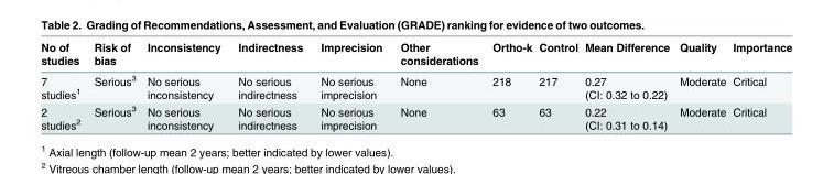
<table><thead><tr><td>No of studies</td><td>Risk of bias</td><td>Inconsistency</td><td>Indirectness</td><td>Imprecision</td><td>Other considerations</td><td>Ortho-k</td><td>Control</td><td>Mean Difference</td><td>Quality</td><td>Importance</td></tr></thead><tbody><tr><td>7 studies<sup>1</sup></td><td>Serious<sup>3</sup></td><td>No serious inconsistency</td><td>No serious indirectness</td><td>No serious imprecision</td><td>None</td><td>218</td><td>217</td><td>0.27 (CI: 0.32 to 0.22)</td><td>Moderate</td><td>Critical</td></tr><tr><td>2 studies<sup>2</sup></td><td>Serious<sup>3</sup></td><td>No serious inconsistency</td><td>No serious indirectness</td><td>No serious imprecision</td><td>None</td><td>63</td><td>63</td><td>0.22 (CI: 0.31 to 0.14)</td><td>Moderate</td><td>Critical</td></tr></tbody></table>